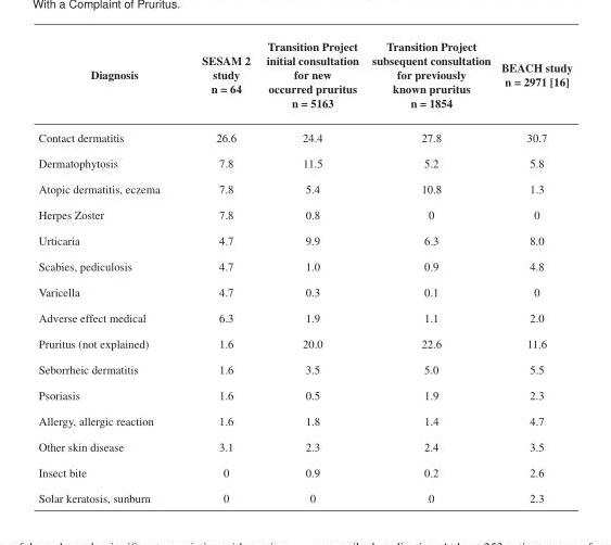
<table><thead><tr><td>Diagnosis</td><td>SESAM 2 study n = 64</td><td>Transition Project initial consultation for new occurred pruritus n = 5163</td><td>Transition Project subsequent consultation for previously known pruritus n = 1854</td><td>BEACH study n = 2971 [16]</td></tr></thead><tbody><tr><td>Contact dermatitis</td><td>26.6</td><td>24.4</td><td>27.8</td><td>30.7</td></tr><tr><td>Dermatophytosis</td><td>7.8</td><td>11.5</td><td>5.2</td><td>5.8</td></tr><tr><td>Atopic dermatitis, eczema</td><td>7.8</td><td>5.4</td><td>10.8</td><td>1.3</td></tr><tr><td>Herpes Zoster</td><td>7.8</td><td>0.8</td><td>0</td><td>0</td></tr><tr><td>Urticaria</td><td>4.7</td><td>9.9</td><td>6.3</td><td>8.0</td></tr><tr><td>Scabies, pediculosis</td><td>4.7</td><td>1.0</td><td>0.9</td><td>4.8</td></tr><tr><td>Varicella</td><td>4.7</td><td>0.3</td><td>0.1</td><td>0</td></tr><tr><td>Adverse effect medical</td><td>6.3</td><td>1.9</td><td>1.1</td><td>2.0</td></tr><tr><td>Pruritus (not explained)</td><td>1.6</td><td>20.0</td><td>22.6</td><td>11.6</td></tr><tr><td>Seborrheic dermatitis</td><td>1.6</td><td>3.5</td><td>5.0</td><td>5.5</td></tr><tr><td>Psoriasis</td><td>1.6</td><td>0.5</td><td>1.9</td><td>2.3</td></tr><tr><td>Allergy, allergic reaction</td><td>1.6</td><td>1.8</td><td>1.4</td><td>4.7</td></tr><tr><td>Other skin disease</td><td>3.1</td><td>2.3</td><td>2.4</td><td>3.5</td></tr><tr><td>Insect bite</td><td>0</td><td>0.9</td><td>0.2</td><td>2.6</td></tr><tr><td>Solar keratosis, sunburn</td><td>0</td><td>0</td><td>0</td><td>2.3</td></tr></tbody></table>